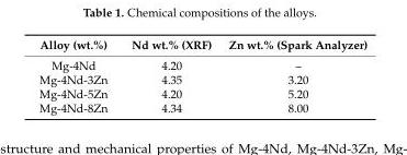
<table><thead><tr><td>Alloy (wt.%)</td><td>Nd wt.% (XRF)</td><td>Zn wt.% (Spark Analyzer)</td></tr></thead><tbody><tr><td>Mg-4Nd</td><td>4.20</td><td>–</td></tr><tr><td>Mg-4Nd-3Zn</td><td>4.35</td><td>3.20</td></tr><tr><td>Mg-4Nd-5Zn</td><td>4.20</td><td>5.20</td></tr><tr><td>Mg-4Nd-8Zn</td><td>4.34</td><td>8.00</td></tr></tbody></table>